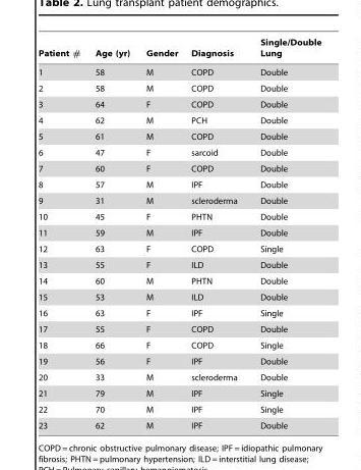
<table><thead><tr><td>Patient #</td><td>Age (yr)</td><td>Gender</td><td>Diagnosis</td><td>Single/Double Lung</td></tr></thead><tbody><tr><td>1</td><td>58</td><td>M</td><td>COPD</td><td>Double</td></tr><tr><td>2</td><td>58</td><td>M</td><td>COPD</td><td>Double</td></tr><tr><td>3</td><td>64</td><td>F</td><td>COPD</td><td>Double</td></tr><tr><td>4</td><td>62</td><td>M</td><td>PCH</td><td>Double</td></tr><tr><td>5</td><td>61</td><td>M</td><td>COPD</td><td>Double</td></tr><tr><td>6</td><td>47</td><td>F</td><td>sarcoid</td><td>Double</td></tr><tr><td>7</td><td>60</td><td>F</td><td>COPD</td><td>Double</td></tr><tr><td>8</td><td>57</td><td>M</td><td>IPF</td><td>Double</td></tr><tr><td>9</td><td>31</td><td>M</td><td>scleroderma</td><td>Double</td></tr><tr><td>10</td><td>45</td><td>F</td><td>PHTN</td><td>Double</td></tr><tr><td>11</td><td>59</td><td>M</td><td>IPF</td><td>Double</td></tr><tr><td>12</td><td>63</td><td>F</td><td>COPD</td><td>Single</td></tr><tr><td>13</td><td>55</td><td>F</td><td>ILD</td><td>Double</td></tr><tr><td>14</td><td>60</td><td>M</td><td>PHTN</td><td>Double</td></tr><tr><td>15</td><td>53</td><td>M</td><td>ILD</td><td>Double</td></tr><tr><td>16</td><td>63</td><td>F</td><td>IPF</td><td>Single</td></tr><tr><td>17</td><td>55</td><td>F</td><td>COPD</td><td>Double</td></tr><tr><td>18</td><td>66</td><td>F</td><td>COPD</td><td>Single</td></tr><tr><td>19</td><td>56</td><td>F</td><td>IPF</td><td>Double</td></tr><tr><td>20</td><td>33</td><td>M</td><td>scleroderma</td><td>Double</td></tr><tr><td>21</td><td>79</td><td>M</td><td>IPF</td><td>Single</td></tr><tr><td>22</td><td>70</td><td>M</td><td>IPF</td><td>Single</td></tr><tr><td>23</td><td>62</td><td>M</td><td>IPF</td><td>Double</td></tr></tbody></table>